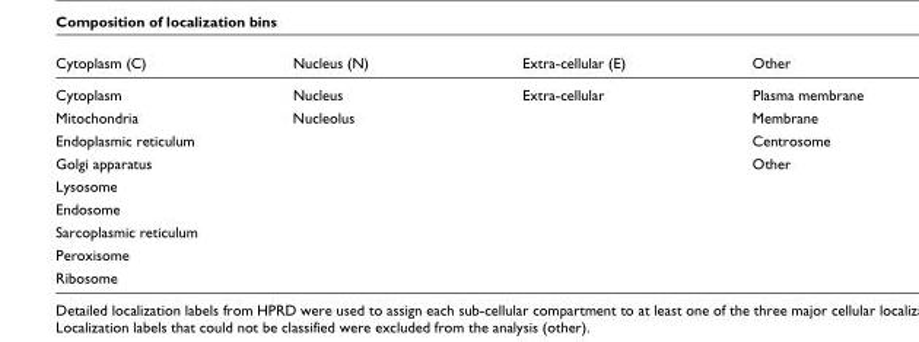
<table><thead><tr><td>Cytoplasm (C)</td><td>Nucleus (N)</td><td>Extra-cellular (E)</td><td>Other</td></tr></thead><tbody><tr><td>Cytoplasm</td><td>Nucleus</td><td>Extra-cellular</td><td>Plasma membrane</td></tr><tr><td>Mitochondria</td><td>Nucleolus</td><td></td><td>Membrane</td></tr><tr><td>Endoplasmic reticulum</td><td></td><td></td><td>Centrosome</td></tr><tr><td>Golgi apparatus</td><td></td><td></td><td>Other</td></tr><tr><td colspan="4">Lysosome</td></tr><tr><td colspan="4">Endosome</td></tr><tr><td colspan="4">Sarcoplasmic reticulum</td></tr><tr><td colspan="4">Peroxisome</td></tr><tr><td>Ribosome</td><td></td><td></td><td></td></tr></tbody></table>